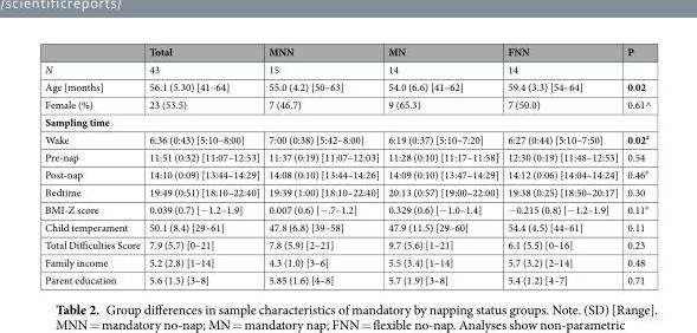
<table><thead><tr><td></td><td>Total</td><td>MNN</td><td>MN</td><td>FNN</td><td>P</td></tr></thead><tbody><tr><td>N</td><td>43</td><td>15</td><td>14</td><td>14</td><td></td></tr><tr><td>Age [months]</td><td>56.1 (5.30) [41–64]</td><td>55.0 (4.2) [50–63]</td><td>54.0 (6.6) [41–62]</td><td>59.4 (3.3) [54–64]</td><td>0.02</td></tr><tr><td>Female (%)</td><td>23 (53.5)</td><td>7 (46.7)</td><td>9 (65.3)</td><td>7 (50.0)</td><td>0.61^</td></tr><tr><td colspan="6">Sampling time</td></tr><tr><td>Wake</td><td>6:36 (0:43) [5:10–8:00]</td><td>7:00 (0:38) [5:42–8:00]</td><td>6:19 (0:37) [5:10–7:20]</td><td>6:27 (0:44) [5:10–7:50]</td><td>0.02<sup>#</sup></td></tr><tr><td>Pre-nap</td><td>11:51 (0:32) [11:07–12:53]</td><td>11:37 (0:19) [11:07–12:03]</td><td>11:28 (0:10) [11:17–11:58]</td><td>12:30 (0:19) [11:48–12:53]</td><td>0.54</td></tr><tr><td>Post-nap</td><td>14:10 (0:09) [13:44–14:29]</td><td>14:08 (0:10) [13:44–14:26]</td><td>14:09 (0:10) [13:47–14:29]</td><td>14:12 (0:06) [14:04–14:24]</td><td>0.46<sup>#</sup></td></tr><tr><td>Bedtime</td><td>19:49 (0:51) [18:10–22:40]</td><td>19:39 (1:00) [18:10–22:40]</td><td>20:13 (0:57) [19:00–22:00]</td><td>19:38 (0:25) [18:50–20:17]</td><td>0.30</td></tr><tr><td>BMI-Z score</td><td>0.039 (0.7) [−1.2–1.9]</td><td>0.007 (0.6) [−.7–1.2]</td><td>0.329 (0.6) [−1.0–1.4]</td><td>−0.215 (0.8) [−1.2–1.9]</td><td>0.11<sup>#</sup></td></tr><tr><td>Child temperament</td><td>50.1 (8.4) [29–61]</td><td>47.8 (6.8) [39–58]</td><td>47.9 (11.5) [29–60]</td><td>54.4 (4.5) [44–61]</td><td>0.11</td></tr><tr><td>Total Difficulties Score</td><td>7.9 (5.7) [0–21]</td><td>7.8 (5.9) [2–21]</td><td>9.7 (5.6) [1–21]</td><td>6.1 (5.5) [0–16]</td><td>0.23</td></tr><tr><td>Family income</td><td>5.2 (2.8) [1–14]</td><td>4.3 (1.0) [3–6]</td><td>5.5 (3.4) [1–14]</td><td>5.7 (3.2) [2–14]</td><td>0.48</td></tr><tr><td>Parent education</td><td>5.6 (1.5) [3–8]</td><td>5.85 (1.6) [4–8]</td><td>5.7 (1.9) [3–8]</td><td>5.4 (1.2) [4–7]</td><td>0.71</td></tr></tbody></table>